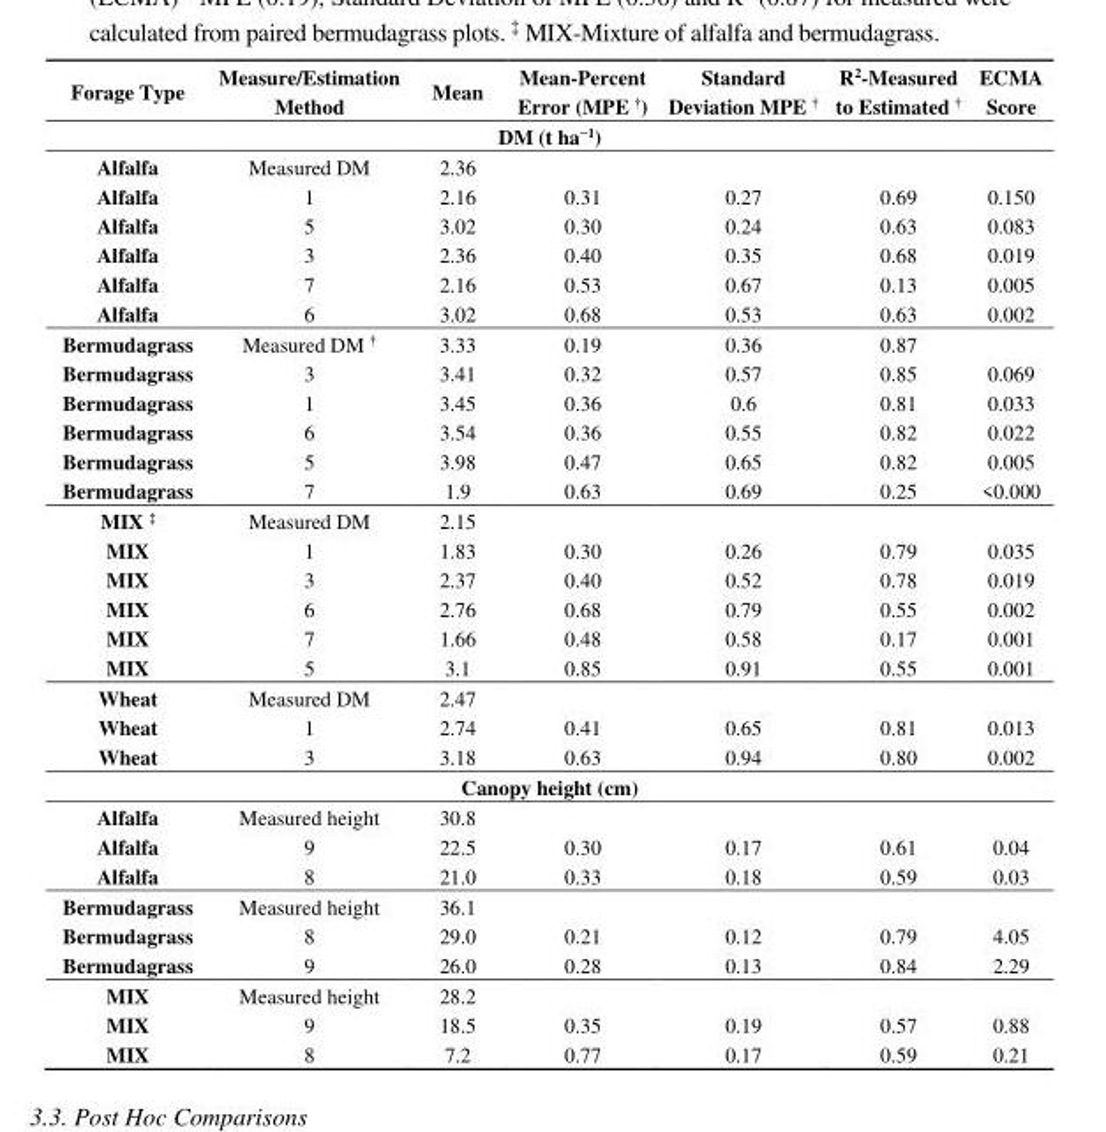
<table><thead><tr><td>Forage Type</td><td>Measure/Estimation Method</td><td>Mean</td><td>Mean-Percent Error (MPE <sup>†</sup>)</td><td>Standard Deviation MPE <sup>†</sup></td><td>R<sup>2</sup>-Measured to Estimated <sup>†</sup></td><td>ECMA Score</td></tr><tr><td colspan="7">DM (t ha<sup>−1</sup>)</td></tr></thead><tbody><tr><td>Alfalfa</td><td>Measured DM</td><td>2.36</td><td></td><td></td><td></td><td></td></tr><tr><td>Alfalfa</td><td>1</td><td>2.16</td><td>0.31</td><td>0.27</td><td>0.69</td><td>0.150</td></tr><tr><td>Alfalfa</td><td>5</td><td>3.02</td><td>0.30</td><td>0.24</td><td>0.63</td><td>0.083</td></tr><tr><td>Alfalfa</td><td>3</td><td>2.36</td><td>0.40</td><td>0.35</td><td>0.68</td><td>0.019</td></tr><tr><td>Alfalfa</td><td>7</td><td>2.16</td><td>0.53</td><td>0.67</td><td>0.13</td><td>0.005</td></tr><tr><td>Alfalfa</td><td>6</td><td>3.02</td><td>0.68</td><td>0.53</td><td>0.63</td><td>0.002</td></tr><tr><td>Bermudagrass</td><td>Measured DM <sup>†</sup></td><td>3.33</td><td>0.19</td><td>0.36</td><td>0.87</td><td></td></tr><tr><td>Bermudagrass</td><td>3</td><td>3.41</td><td>0.32</td><td>0.57</td><td>0.85</td><td>0.069</td></tr><tr><td>Bermudagrass</td><td>1</td><td>3.45</td><td>0.36</td><td>0.6</td><td>0.81</td><td>0.033</td></tr><tr><td>Bermudagrass</td><td>6</td><td>3.54</td><td>0.36</td><td>0.55</td><td>0.82</td><td>0.022</td></tr><tr><td>Bermudagrass</td><td>5</td><td>3.98</td><td>0.47</td><td>0.65</td><td>0.82</td><td>0.005</td></tr><tr><td>Bermudagrass</td><td>7</td><td>1.9</td><td>0.63</td><td>0.69</td><td>0.25</td><td>&lt;0.000</td></tr><tr><td>MIX <sup>‡</sup></td><td>Measured DM</td><td>2.15</td><td></td><td></td><td></td><td></td></tr><tr><td>MIX</td><td>1</td><td>1.83</td><td>0.30</td><td>0.26</td><td>0.79</td><td>0.035</td></tr><tr><td>MIX</td><td>3</td><td>2.37</td><td>0.40</td><td>0.52</td><td>0.78</td><td>0.019</td></tr><tr><td>MIX</td><td>6</td><td>2.76</td><td>0.68</td><td>0.79</td><td>0.55</td><td>0.002</td></tr><tr><td>MIX</td><td>7</td><td>1.66</td><td>0.48</td><td>0.58</td><td>0.17</td><td>0.001</td></tr><tr><td>MIX</td><td>5</td><td>3.1</td><td>0.85</td><td>0.91</td><td>0.55</td><td>0.001</td></tr><tr><td>Wheat</td><td>Measured DM</td><td>2.47</td><td></td><td></td><td></td><td></td></tr><tr><td>Wheat</td><td>1</td><td>2.74</td><td>0.41</td><td>0.65</td><td>0.81</td><td>0.013</td></tr><tr><td>Wheat</td><td>3</td><td>3.18</td><td>0.63</td><td>0.94</td><td>0.80</td><td>0.002</td></tr><tr><td colspan="7">Canopy height (cm)</td></tr><tr><td>Alfalfa</td><td>Measured height</td><td>30.8</td><td></td><td></td><td></td><td></td></tr><tr><td>Alfalfa</td><td>9</td><td>22.5</td><td>0.30</td><td>0.17</td><td>0.61</td><td>0.04</td></tr><tr><td>Alfalfa</td><td>8</td><td>21.0</td><td>0.33</td><td>0.18</td><td>0.59</td><td>0.03</td></tr><tr><td>Bermudagrass</td><td>Measured height</td><td>36.1</td><td></td><td></td><td></td><td></td></tr><tr><td>Bermudagrass</td><td>8</td><td>29.0</td><td>0.21</td><td>0.12</td><td>0.79</td><td>4.05</td></tr><tr><td>Bermudagrass</td><td>9</td><td>26.0</td><td>0.28</td><td>0.13</td><td>0.84</td><td>2.29</td></tr><tr><td>MIX</td><td>Measured height</td><td>28.2</td><td></td><td></td><td></td><td></td></tr><tr><td>MIX</td><td>9</td><td>18.5</td><td>0.35</td><td>0.19</td><td>0.57</td><td>0.88</td></tr><tr><td>MIX</td><td>8</td><td>7.2</td><td>0.77</td><td>0.17</td><td>0.59</td><td>0.21</td></tr></tbody></table>